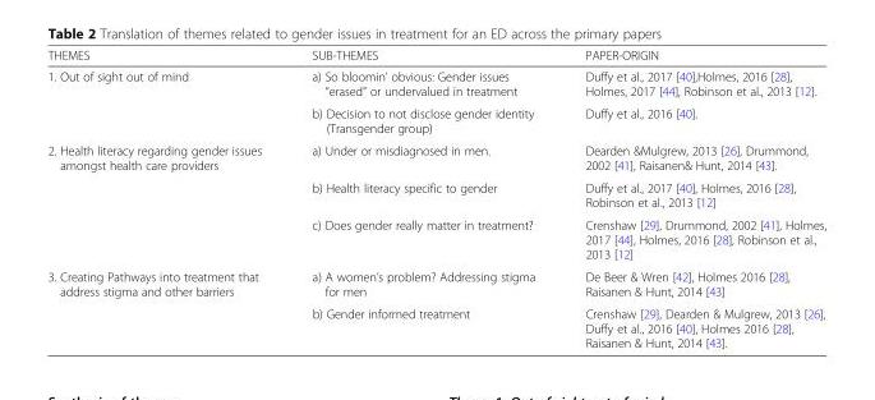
<table><thead><tr><td>THEMES</td><td>SUB-THEMES</td><td>PAPER-ORIGIN</td></tr></thead><tbody><tr><td rowspan="2">1. Out of sight out of mind</td><td>a) So bloomin’ obvious: Gender issues “erased” or undervalued in treatment</td><td>Duffy et al., 2017 [40],Holmes, 2016 [28], Holmes, 2017 [44], Robinson et al., 2013 [12].</td></tr><tr><td>b) Decision to not disclose gender identity (Transgender group)</td><td>Duffy et al., 2016 [40].</td></tr><tr><td rowspan="3">2. Health literacy regarding gender issues amongst health care providers</td><td>a) Under or misdiagnosed in men.</td><td>Dearden &amp;Mulgrew, 2013 [26], Drummond, 2002 [41], Raisanen&amp; Hunt, 2014 [43].</td></tr><tr><td>b) Health literacy specific to gender</td><td>Duffy et al., 2017 [40], Holmes, 2016 [28], Robinson et al., 2013 [12]</td></tr><tr><td>c) Does gender really matter in treatment?</td><td>Crenshaw [29], Drummond, 2002 [41], Holmes, 2017 [44], Holmes, 2016 [28], Robinson et al., 2013 [12]</td></tr><tr><td rowspan="2">3. Creating Pathways into treatment that address stigma and other barriers</td><td>a) A women’s problem? Addressing stigma for men</td><td>De Beer &amp; Wren [42], Holmes 2016 [28], Raisanen &amp; Hunt, 2014 [43]</td></tr><tr><td>b) Gender informed treatment</td><td>Crenshaw [29], Dearden &amp; Mulgrew, 2013 [26], Duffy et al., 2016 [40], Holmes 2016 [28], Raisanen &amp; Hunt, 2014 [43].</td></tr></tbody></table>